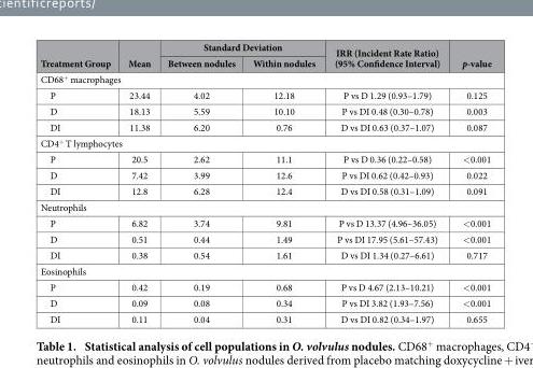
<table><thead><tr><td rowspan="2">Treatment Group</td><td rowspan="2">Mean</td><td colspan="2">Standard Deviation</td><td rowspan="2">IRR (Incident Rate Ratio) (95% Confidence Interval)</td><td rowspan="2">p-value</td></tr><tr><td>Between nodules</td><td>Within nodules</td></tr></thead><tbody><tr><td colspan="6">CD68<sup>+</sup> macrophages</td></tr><tr><td>P</td><td>23.44</td><td>4.02</td><td>12.18</td><td>P vs D 1.29 (0.93–1.79)</td><td>0.125</td></tr><tr><td>D</td><td>18.13</td><td>5.59</td><td>10.10</td><td>P vs DI 0.48 (0.30–0.78)</td><td>0.003</td></tr><tr><td>DI</td><td>11.38</td><td>6.20</td><td>0.76</td><td>D vs DI 0.63 (0.37–1.07)</td><td>0.087</td></tr><tr><td colspan="6">CD4<sup>+</sup> T lymphocytes</td></tr><tr><td>P</td><td>20.5</td><td>2.62</td><td>11.1</td><td>P vs D 0.36 (0.22–0.58)</td><td>&lt; 0.001</td></tr><tr><td>D</td><td>7.42</td><td>3.99</td><td>12.6</td><td>P vs DI 0.62 (0.42–0.93)</td><td>0.022</td></tr><tr><td>DI</td><td>12.8</td><td>6.28</td><td>12.4</td><td>D vs DI 0.58 (0.31–1.09)</td><td>0.091</td></tr><tr><td colspan="6">Neutrophils</td></tr><tr><td>P</td><td>6.82</td><td>3.74</td><td>9.81</td><td>P vs D 13.37 (4.96–36.05)</td><td>&lt; 0.001</td></tr><tr><td>D</td><td>0.51</td><td>0.44</td><td>1.49</td><td>P vs DI 17.95 (5.61–57.43)</td><td>&lt; 0.001</td></tr><tr><td>DI</td><td>0.38</td><td>0.54</td><td>1.61</td><td>D vs DI 1.34 (0.27–6.61)</td><td>0.717</td></tr><tr><td colspan="6">Eosinophils</td></tr><tr><td>P</td><td>0.42</td><td>0.19</td><td>0.68</td><td>P vs D 4.67 (2.13–10.21)</td><td>&lt; 0.001</td></tr><tr><td>D</td><td>0.09</td><td>0.08</td><td>0.34</td><td>P vs DI 3.82 (1.93–7.56)</td><td>&lt; 0.001</td></tr><tr><td>DI</td><td>0.11</td><td>0.04</td><td>0.31</td><td>D vs DI 0.82 (0.34–1.97)</td><td>0.655</td></tr></tbody></table>